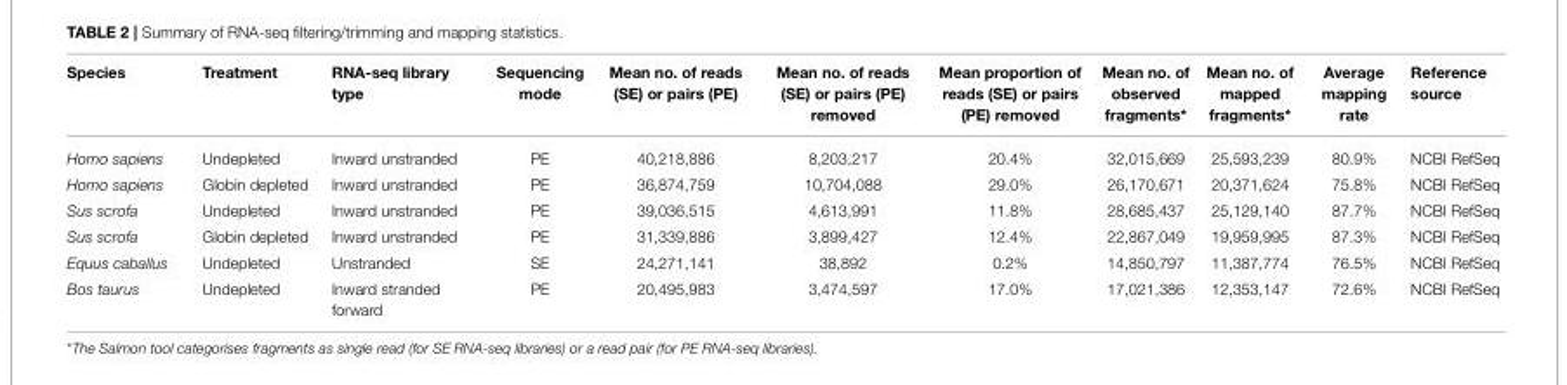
<table><thead><tr><td>Species</td><td>Treatment</td><td>RNA-seq library type</td><td>Sequencing mode</td><td>Mean no. of reads (SE) or pairs (PE)</td><td>Mean no. of reads (SE) or pairs (PE) removed</td><td>Mean proportion of reads (SE) or pairs (PE) removed</td><td>Mean no. of observed fragments*</td><td>Mean no. of mapped fragments*</td><td>Average mapping rate</td><td>Reference source</td></tr></thead><tbody><tr><td>Homo sapiens</td><td>Undepleted</td><td>Inward unstranded</td><td>PE</td><td>40,218,886</td><td>8,203,217</td><td>20.4%</td><td>32,015,669</td><td>25,593,239</td><td>80.9%</td><td>NCBI RefSeq</td></tr><tr><td>Homo sapiens</td><td>Globin depleted</td><td>Inward unstranded</td><td>PE</td><td>36,874,759</td><td>10,704,088</td><td>29.0%</td><td>26,170,671</td><td>20,371,624</td><td>75.8%</td><td>NCBI RefSeq</td></tr><tr><td>Sus scrofa</td><td>Undepleted</td><td>Inward unstranded</td><td>PE</td><td>39,036,515</td><td>4,613,991</td><td>11.8%</td><td>28,685,437</td><td>25,129,140</td><td>87.7%</td><td>NCBI RefSeq</td></tr><tr><td>Sus scrofa</td><td>Globin depleted</td><td>Inward unstranded</td><td>PE</td><td>31,339,886</td><td>3,899,427</td><td>12.4%</td><td>22,867,049</td><td>19,959,995</td><td>87.3%</td><td>NCBI RefSeq</td></tr><tr><td>Equus caballus</td><td>Undepleted</td><td>Unstranded</td><td>SE</td><td>24,271,141</td><td>38,892</td><td>0.2%</td><td>14,850,797</td><td>11,387,774</td><td>76.5%</td><td>NCBI RefSeq</td></tr><tr><td>Bos taurus</td><td>Undepleted</td><td>Inward stranded forward</td><td>PE</td><td>20,495,983</td><td>3,474,597</td><td>17.0%</td><td>17,021,386</td><td>12,353,147</td><td>72.6%</td><td>NCBI RefSeq</td></tr></tbody></table>